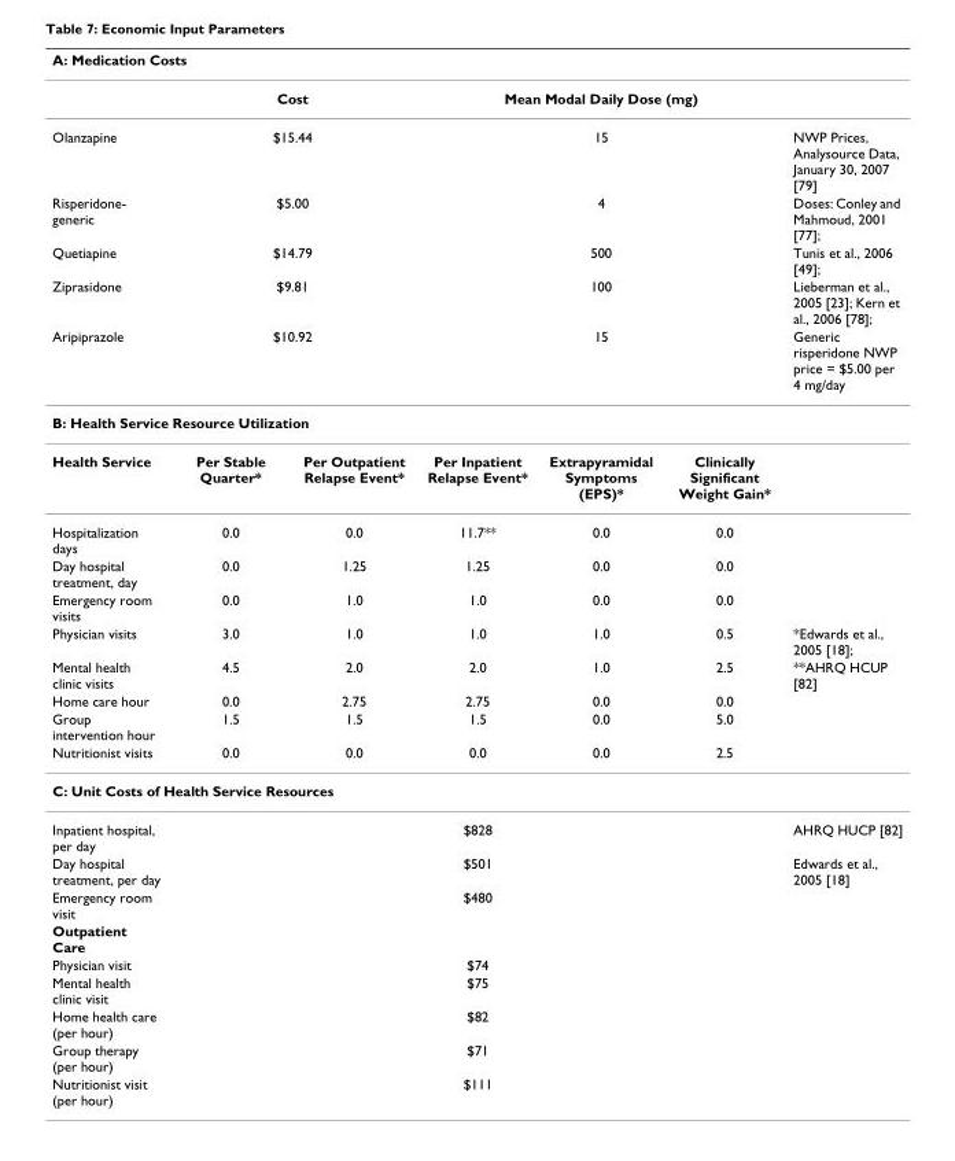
<table><thead><tr><td colspan="7">A: Medication Costs</td></tr></thead><tbody><tr><td></td><td colspan="2">Cost</td><td colspan="3">Mean Modal Daily Dose (mg)</td><td></td></tr><tr><td>Olanzapine</td><td colspan="2">$15.44</td><td colspan="3">15</td><td>NWP Prices, Analysource Data, January 30, 2007 [79]</td></tr><tr><td>Risperidone- generic</td><td colspan="2">$5.00</td><td colspan="3">4</td><td>Doses: Conley and Mahmoud, 2001 [77];</td></tr><tr><td>Quetiapine</td><td colspan="2">$14.79</td><td colspan="3">500</td><td>Tunis et al., 2006 [49];</td></tr><tr><td>Ziprasidone</td><td colspan="2">$9.81</td><td colspan="3">100</td><td>Lieberman et al., 2005 [23]; Kern et al., 2006 [78];</td></tr><tr><td>Aripiprazole</td><td colspan="2">$10.92</td><td colspan="3">15</td><td>Generic risperidone NWP price = $5.00 per 4 mg/day</td></tr><tr><td colspan="7">B: Health Service Resource Utilization</td></tr><tr><td>Health Service</td><td>Per Stable Quarter*</td><td>Per Outpatient Relapse Event*</td><td>Per Inpatient Relapse Event*</td><td>Extrapyramidal Symptoms (EPS)*</td><td>Clinically Significant Weight Gain*</td><td></td></tr><tr><td>Hospitalization days</td><td>0.0</td><td>0.0</td><td>11.7**</td><td>0.0</td><td>0.0</td><td></td></tr><tr><td>Day hospital treatment, day</td><td>0.0</td><td>1.25</td><td>1.25</td><td>0.0</td><td>0.0</td><td></td></tr><tr><td>Emergency room visits</td><td>0.0</td><td>1.0</td><td>1.0</td><td>0.0</td><td>0.0</td><td></td></tr><tr><td>Physician visits</td><td>3.0</td><td>1.0</td><td>1.0</td><td>1.0</td><td>0.5</td><td>*Edwards et al., 2005 [18];</td></tr><tr><td>Mental health clinic visits</td><td>4.5</td><td>2.0</td><td>2.0</td><td>1.0</td><td>2.5</td><td>**AHRQ HCUP [82]</td></tr><tr><td>Home care hour</td><td>0.0</td><td>2.75</td><td>2.75</td><td>0.0</td><td>0.0</td><td></td></tr><tr><td>Group intervention hour</td><td>1.5</td><td>1.5</td><td>1.5</td><td>0.0</td><td>5.0</td><td></td></tr><tr><td>Nutritionist visits</td><td>0.0</td><td>0.0</td><td>0.0</td><td>0.0</td><td>2.5</td><td></td></tr><tr><td colspan="7">C: Unit Costs of Health Service Resources</td></tr><tr><td>Inpatient hospital, per day</td><td colspan="5">$828</td><td>AHRQ HUCP [82]</td></tr><tr><td>Day hospital treatment, per day</td><td colspan="5">$501</td><td>Edwards et al., 2005 [18]</td></tr><tr><td>Emergency room visit</td><td colspan="5">$480</td><td></td></tr><tr><td colspan="7">Outpatient Care</td></tr><tr><td>Physician visit</td><td colspan="5">$74</td><td></td></tr><tr><td>Mental health clinic visit</td><td colspan="5">$75</td><td></td></tr><tr><td>Home health care (per hour)</td><td colspan="5">$82</td><td></td></tr><tr><td>Group therapy (per hour)</td><td colspan="5">$71</td><td></td></tr><tr><td>Nutritionist visit (per hour)</td><td colspan="5">$111</td><td></td></tr></tbody></table>